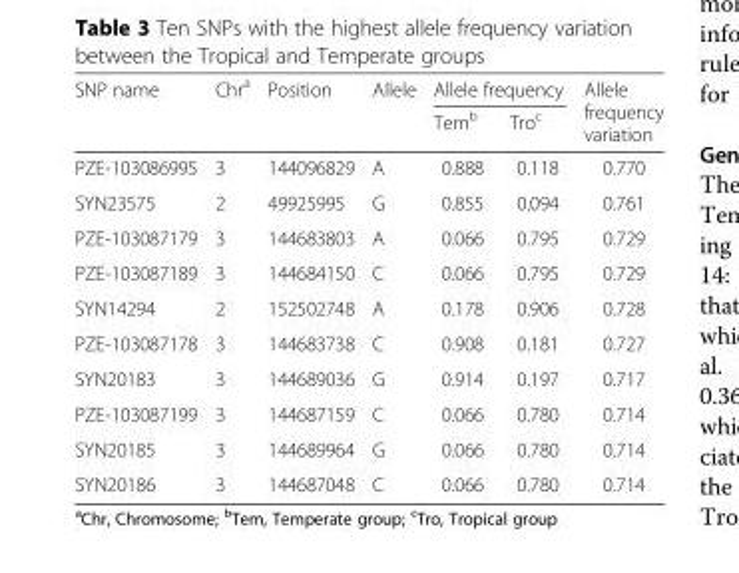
<table><thead><tr><td rowspan="2">SNP name</td><td rowspan="2">Chr<sup>a</sup></td><td rowspan="2">Position</td><td rowspan="2">Allele</td><td colspan="2">Allele frequency</td><td rowspan="2">Allele frequency variation</td></tr><tr><td>Tem<sup>b</sup></td><td>Tro<sup>c</sup></td></tr></thead><tbody><tr><td>PZE-103086995</td><td>3</td><td>144096829</td><td>A</td><td>0.888</td><td>0.118</td><td>0.770</td></tr><tr><td>SYN23575</td><td>2</td><td>49925995</td><td>G</td><td>0.855</td><td>0.094</td><td>0.761</td></tr><tr><td>PZE-103087179</td><td>3</td><td>144683803</td><td>A</td><td>0.066</td><td>0.795</td><td>0.729</td></tr><tr><td>PZE-103087189</td><td>3</td><td>144684150</td><td>C</td><td>0.066</td><td>0.795</td><td>0.729</td></tr><tr><td>SYN14294</td><td>2</td><td>152502748</td><td>A</td><td>0.178</td><td>0.906</td><td>0.728</td></tr><tr><td>PZE-103087178</td><td>3</td><td>144683738</td><td>C</td><td>0.908</td><td>0.181</td><td>0.727</td></tr><tr><td>SYN20183</td><td>3</td><td>144689036</td><td>G</td><td>0.914</td><td>0.197</td><td>0.717</td></tr><tr><td>PZE-103087199</td><td>3</td><td>144687159</td><td>C</td><td>0.066</td><td>0.780</td><td>0.714</td></tr><tr><td>SYN20185</td><td>3</td><td>144689964</td><td>G</td><td>0.066</td><td>0.780</td><td>0.714</td></tr><tr><td>SYN20186</td><td>3</td><td>144687048</td><td>C</td><td>0.066</td><td>0.780</td><td>0.714</td></tr></tbody></table>